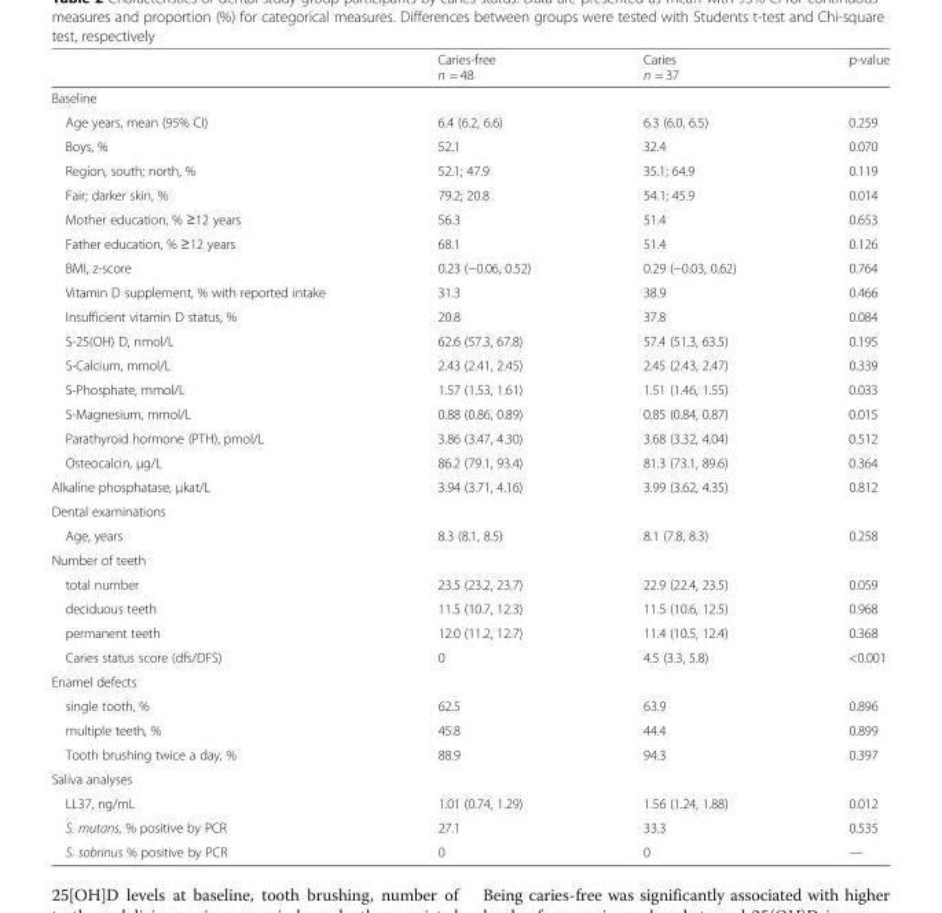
<table><thead><tr><td></td><td>Caries-free n = 48</td><td>Caries n = 37</td><td>p-value</td></tr></thead><tbody><tr><td colspan="4">Baseline</td></tr><tr><td>Age years, mean (95% CI)</td><td>6.4 (6.2, 6.6)</td><td>6.3 (6.0, 6.5)</td><td>0.259</td></tr><tr><td>Boys, %</td><td>52.1</td><td>32.4</td><td>0.070</td></tr><tr><td>Region, south; north, %</td><td>52.1; 47.9</td><td>35.1; 64.9</td><td>0.119</td></tr><tr><td>Fair; darker skin, %</td><td>79.2; 20.8</td><td>54.1; 45.9</td><td>0.014</td></tr><tr><td>Mother education, % ≥12 years</td><td>56.3</td><td>51.4</td><td>0.653</td></tr><tr><td>Father education, % ≥12 years</td><td>68.1</td><td>51.4</td><td>0.126</td></tr><tr><td>BMI, z-score</td><td>0.23 (−0.06, 0.52)</td><td>0.29 (−0.03, 0.62)</td><td>0.764</td></tr><tr><td>Vitamin D supplement, % with reported intake</td><td>31.3</td><td>38.9</td><td>0.466</td></tr><tr><td>Insufficient vitamin D status, %</td><td>20.8</td><td>37.8</td><td>0.084</td></tr><tr><td>S-25(OH) D, nmol/L</td><td>62.6 (57.3, 67.8)</td><td>57.4 (51.3, 63.5)</td><td>0.195</td></tr><tr><td>S-Calcium, mmol/L</td><td>2.43 (2.41, 2.45)</td><td>2.45 (2.43, 2.47)</td><td>0.339</td></tr><tr><td>S-Phosphate, mmol/L</td><td>1.57 (1.53, 1.61)</td><td>1.51 (1.46, 1.55)</td><td>0.033</td></tr><tr><td>S-Magnesium, mmol/L</td><td>0.88 (0.86, 0.89)</td><td>0.85 (0.84, 0.87)</td><td>0.015</td></tr><tr><td>Parathyroid hormone (PTH), pmol/L</td><td>3.86 (3.47, 4.30)</td><td>3.68 (3.32, 4.04)</td><td>0.512</td></tr><tr><td>Osteocalcin, μg/L</td><td>86.2 (79.1, 93.4)</td><td>81.3 (73.1, 89.6)</td><td>0.364</td></tr><tr><td>Alkaline phosphatase, μkat/L</td><td>3.94 (3.71, 4.16)</td><td>3.99 (3.62, 4.35)</td><td>0.812</td></tr><tr><td colspan="4">Dental examinations</td></tr><tr><td>Age, years</td><td>8.3 (8.1, 8.5)</td><td>8.1 (7.8, 8.3)</td><td>0.258</td></tr><tr><td colspan="4">Number of teeth</td></tr><tr><td>total number</td><td>23.5 (23.2, 23.7)</td><td>22.9 (22.4, 23.5)</td><td>0.059</td></tr><tr><td>deciduous teeth</td><td>11.5 (10.7, 12.3)</td><td>11.5 (10.6, 12.5)</td><td>0.968</td></tr><tr><td>permanent teeth</td><td>12.0 (11.2, 12.7)</td><td>11.4 (10.5, 12.4)</td><td>0.368</td></tr><tr><td>Caries status score (dfs/DFS)</td><td>0</td><td>4.5 (3.3, 5.8)</td><td>&lt;0.001</td></tr><tr><td colspan="4">Enamel defects</td></tr><tr><td>single tooth, %</td><td>62.5</td><td>63.9</td><td>0.896</td></tr><tr><td>multiple teeth, %</td><td>45.8</td><td>44.4</td><td>0.899</td></tr><tr><td>Tooth brushing twice a day, %</td><td>88.9</td><td>94.3</td><td>0.397</td></tr><tr><td colspan="4">Saliva analyses</td></tr><tr><td>LL37, ng/mL</td><td>1.01 (0.74, 1.29)</td><td>1.56 (1.24, 1.88)</td><td>0.012</td></tr><tr><td>S. mutans, % positive by PCR</td><td>27.1</td><td>33.3</td><td>0.535</td></tr><tr><td>S. sobrinus % positive by PCR</td><td>0</td><td>0</td><td>—</td></tr></tbody></table>